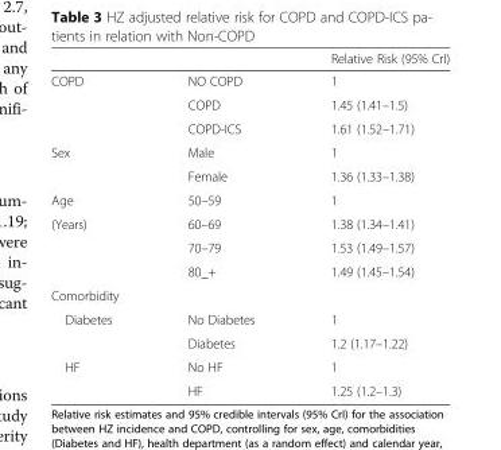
<table><thead><tr><td></td><td></td><td>Relative Risk (95% CrI)</td></tr></thead><tbody><tr><td rowspan="3">COPD</td><td>NO COPD</td><td>1</td></tr><tr><td>COPD</td><td>1.45 (1.41–1.5)</td></tr><tr><td>COPD-ICS</td><td>1.61 (1.52–1.71)</td></tr><tr><td rowspan="2">Sex</td><td>Male</td><td>1</td></tr><tr><td>Female</td><td>1.36 (1.33–1.38)</td></tr><tr><td>Age</td><td>50–59</td><td>1</td></tr><tr><td rowspan="3">(Years)</td><td>60–69</td><td>1.38 (1.34–1.41)</td></tr><tr><td>70–79</td><td>1.53 (1.49–1.57)</td></tr><tr><td>80_+</td><td>1.49 (1.45–1.54)</td></tr><tr><td colspan="3">Comorbidity</td></tr><tr><td rowspan="2">Diabetes</td><td>No Diabetes</td><td>1</td></tr><tr><td>Diabetes</td><td>1.2 (1.17–1.22)</td></tr><tr><td rowspan="2">HF</td><td>No HF</td><td>1</td></tr><tr><td>HF</td><td>1.25 (1.2–1.3)</td></tr></tbody></table>